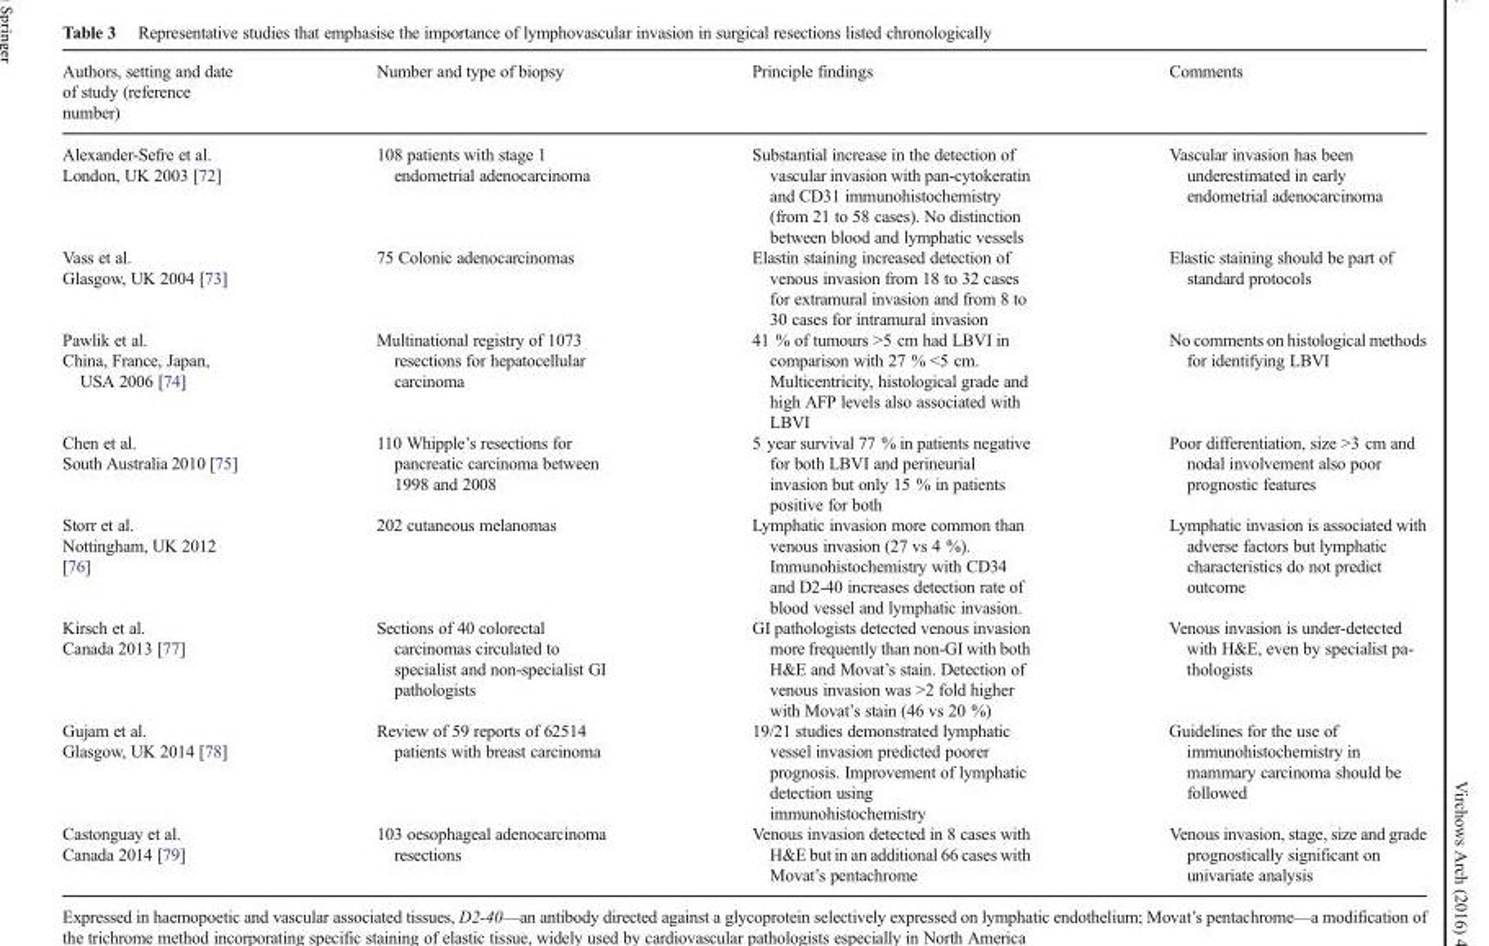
<table><thead><tr><td>Authors, setting and date of study (reference number)</td><td>Number and type of biopsy</td><td>Principle findings</td><td>Comments</td></tr></thead><tbody><tr><td>Alexander-Sefre et al. London, UK 2003 [72]</td><td>108 patients with stage 1 endometrial adenocarcinoma</td><td>Substantial increase in the detection of vascular invasion with pan-cytokeratin and CD31 immunohistochemistry (from 21 to 58 cases). No distinction between blood and lymphatic vessels</td><td>Vascular invasion has been underestimated in early endometrial adenocarcinoma</td></tr><tr><td>Vass et al. Glasgow, UK 2004 [73]</td><td>75 Colonic adenocarcinomas</td><td>Elastin staining increased detection of venous invasion from 18 to 32 cases for extramural invasion and from 8 to 30 cases for intramural invasion</td><td>Elastic staining should be part of standard protocols</td></tr><tr><td>Pawlik et al. China, France, Japan, USA 2006 [74]</td><td>Multinational registry of 1073 resections for hepatocellular carcinoma</td><td>41 % of tumours &gt;5 cm had LBVI in comparison with 27 % &lt;5 cm. Multicentricity, histological grade and high AFP levels also associated with LBVI</td><td>No comments on histological methods for identifying LBVI</td></tr><tr><td>Chen et al. South Australia 2010 [75]</td><td>110 Whipple’s resections for pancreatic carcinoma between 1998 and 2008</td><td>5 year survival 77 % in patients negative for both LBVI and perineurial invasion but only 15 % in patients positive for both</td><td>Poor differentiation, size &gt;3 cm and nodal involvement also poor prognostic features</td></tr><tr><td>Storr et al. Nottingham, UK 2012 [76]</td><td>202 cutaneous melanomas</td><td>Lymphatic invasion more common than venous invasion (27 vs 4 %). Immunohistochemistry with CD34 and D2-40 increases detection rate of blood vessel and lymphatic invasion.</td><td>Lymphatic invasion is associated with adverse factors but lymphatic characteristics do not predict outcome</td></tr><tr><td>Kirsch et al. Canada 2013 [77]</td><td>Sections of 40 colorectal carcinomas circulated to specialist and non-specialist GI pathologists</td><td>GI pathologists detected venous invasion more frequently than non-GI with both H&amp;E and Movat’s stain. Detection of venous invasion was &gt;2 fold higher with Movat’s stain (46 vs 20 %)</td><td>Venous invasion is under-detected with H&amp;E, even by specialist pa- thologists</td></tr><tr><td>Gujam et al. Glasgow, UK 2014 [78]</td><td>Review of 59 reports of 62514 patients with breast carcinoma</td><td>19/21 studies demonstrated lymphatic vessel invasion predicted poorer prognosis. Improvement of lymphatic detection using immunohistochemistry</td><td>Guidelines for the use of immunohistochemistry in mammary carcinoma should be followed</td></tr><tr><td>Castonguay et al. Canada 2014 [79]</td><td>103 oesophageal adenocarcinoma resections</td><td>Venous invasion detected in 8 cases with H&amp;E but in an additional 66 cases with Movat’s pentachrome</td><td>Venous invasion, stage, size and grade prognostically significant on univariate analysis</td></tr></tbody></table>